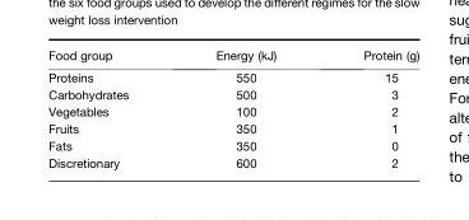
<table><thead><tr><td>Food group</td><td>Energy (kJ)</td><td>Protein (g)</td></tr></thead><tbody><tr><td>Proteins</td><td>550</td><td>15</td></tr><tr><td>Carbohydrates</td><td>500</td><td>3</td></tr><tr><td>Vegetables</td><td>100</td><td>2</td></tr><tr><td>Fruits</td><td>350</td><td>1</td></tr><tr><td>Fats</td><td>350</td><td>0</td></tr><tr><td>Discretionary</td><td>600</td><td>2</td></tr></tbody></table>